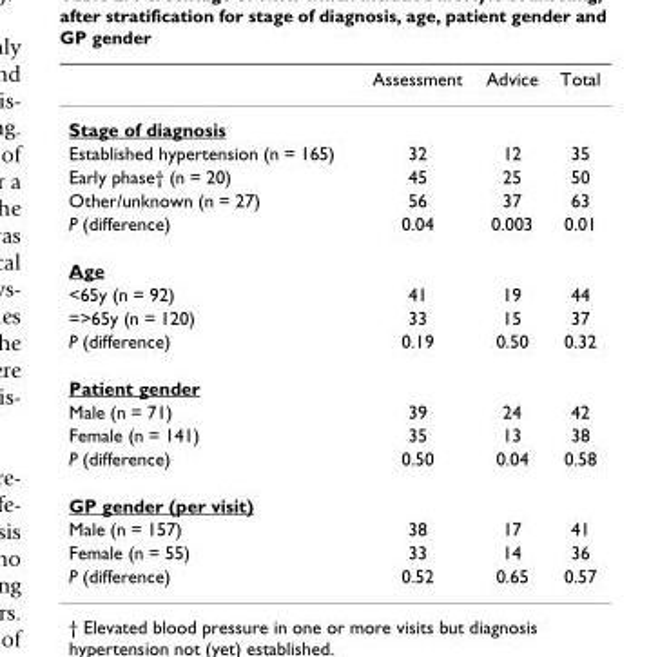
<table><thead><tr><td></td><td>Assessment</td><td>Advice</td><td>Total</td></tr></thead><tbody><tr><td colspan="4">Stage of diagnosis</td></tr><tr><td>Established hypertension (n = 165)</td><td>32</td><td>12</td><td>35</td></tr><tr><td>Early phase† (n = 20)</td><td>45</td><td>25</td><td>50</td></tr><tr><td>Other/unknown (n = 27)</td><td>56</td><td>37</td><td>63</td></tr><tr><td>P (difference)</td><td>0.04</td><td>0.003</td><td>0.01</td></tr><tr><td colspan="4">Age</td></tr><tr><td>&lt;65y (n = 92)</td><td>41</td><td>19</td><td>44</td></tr><tr><td>=&gt;65y (n = 120)</td><td>33</td><td>15</td><td>37</td></tr><tr><td>P (difference)</td><td>0.19</td><td>0.50</td><td>0.32</td></tr><tr><td colspan="4">Patient gender</td></tr><tr><td>Male (n = 71)</td><td>39</td><td>24</td><td>42</td></tr><tr><td>Female (n = 141)</td><td>35</td><td>13</td><td>38</td></tr><tr><td>P (difference)</td><td>0.50</td><td>0.04</td><td>0.58</td></tr><tr><td colspan="4">GP gender (per visit)</td></tr><tr><td>Male (n = 157)</td><td>38</td><td>17</td><td>41</td></tr><tr><td>Female (n = 55)</td><td>33</td><td>14</td><td>36</td></tr><tr><td>P (difference)</td><td>0.52</td><td>0.65</td><td>0.57</td></tr></tbody></table>